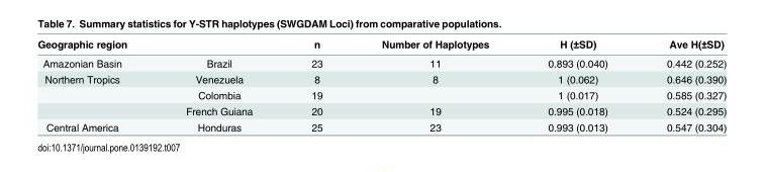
<table><thead><tr><td>Geographic region</td><td></td><td>n</td><td>Number of Haplotypes</td><td>H (±SD)</td><td>Ave H(±SD)</td></tr></thead><tbody><tr><td>Amazonian Basin</td><td>Brazil</td><td>23</td><td>11</td><td>0.893 (0.040)</td><td>0.442 (0.252)</td></tr><tr><td rowspan="3">Northern Tropics</td><td>Venezuela</td><td>8</td><td>8</td><td>1 (0.062)</td><td>0.646 (0.390)</td></tr><tr><td>Colombia</td><td>19</td><td></td><td>1 (0.017)</td><td>0.585 (0.327)</td></tr><tr><td>French Guiana</td><td>20</td><td>19</td><td>0.995 (0.018)</td><td>0.524 (0.295)</td></tr><tr><td>Central America</td><td>Honduras</td><td>25</td><td>23</td><td>0.993 (0.013)</td><td>0.547 (0.304)</td></tr></tbody></table>